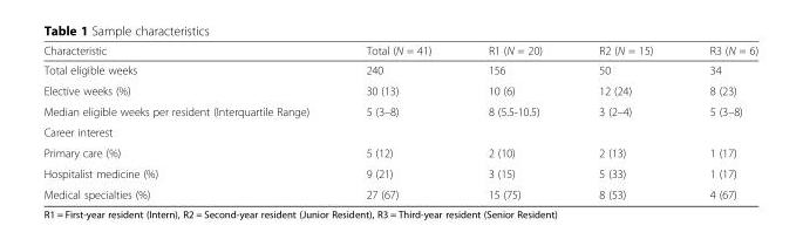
<table><thead><tr><td>Characteristic</td><td>Total (N = 41)</td><td>R1 (N = 20)</td><td>R2 (N = 15)</td><td>R3 (N = 6)</td></tr></thead><tbody><tr><td>Total eligible weeks</td><td>240</td><td>156</td><td>50</td><td>34</td></tr><tr><td>Elective weeks (%)</td><td>30 (13)</td><td>10 (6)</td><td>12 (24)</td><td>8 (23)</td></tr><tr><td>Median eligible weeks per resident (Interquartile Range)</td><td>5 (3–8)</td><td>8 (5.5-10.5)</td><td>3 (2–4)</td><td>5 (3–8)</td></tr><tr><td colspan="5">Career interest</td></tr><tr><td>Primary care (%)</td><td>5 (12)</td><td>2 (10)</td><td>2 (13)</td><td>1 (17)</td></tr><tr><td>Hospitalist medicine (%)</td><td>9 (21)</td><td>3 (15)</td><td>5 (33)</td><td>1 (17)</td></tr><tr><td>Medical specialties (%)</td><td>27 (67)</td><td>15 (75)</td><td>8 (53)</td><td>4 (67)</td></tr></tbody></table>